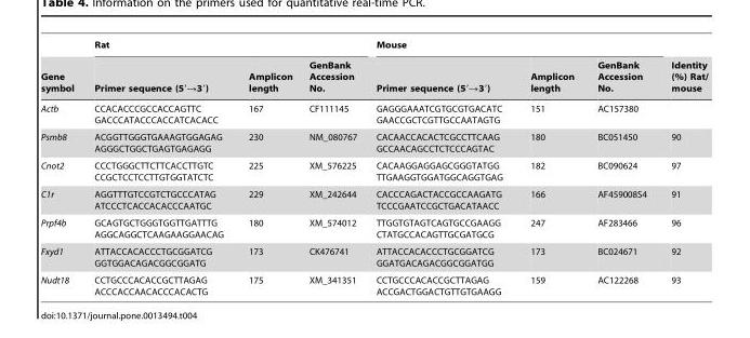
<table><thead><tr><td rowspan="2">Gene symbol</td><td colspan="3">Rat</td><td colspan="3">Mouse</td><td rowspan="2">Identity (%) Rat/ mouse</td></tr><tr><td>Primer sequence (5′→3′)</td><td>Amplicon length</td><td>GenBank Accession No.</td><td>Primer sequence (5′→3′)</td><td>Amplicon length</td><td>GenBank Accession No.</td></tr></thead><tbody><tr><td>Actb</td><td>CCACACCCGCCACCAGTTC GACCCATACCCACCATCACACC</td><td>167</td><td>CF111145</td><td>GAGGGAAATCGTGCGTGACATC GAACCGCTCGTTGCCAATAGTG</td><td>151</td><td>AC157380</td><td></td></tr><tr><td>Psmb8</td><td>ACGGTTGGGTGAAAGTGGAGAG AGGGCTGGCTGAGTGAGAGG</td><td>230</td><td>NM_080767</td><td>CACAACCACACTCGCCTTCAAG GCCAACAGCCTCTCCCAGTAC</td><td>180</td><td>BC051450</td><td>90</td></tr><tr><td>Cnot2</td><td>CCCTGGGCTTCTTCACCTTGTC CCGCTCCTCCTTGTGGTATCTC</td><td>225</td><td>XM_576225</td><td>CACAAGGAGGAGCGGGTATGG TTGAAGGTGGATGGCAGGTGAG</td><td>182</td><td>BC090624</td><td>97</td></tr><tr><td>C1r</td><td>AGGTTTGTCCGTCTGCCCATAG ATCCCTCACCACACCCAATGC</td><td>229</td><td>XM_242644</td><td>CACCCAGACTACCGCCAAGATG TCCCGAATCCGCTGACATAACC</td><td>166</td><td>AF459008S4</td><td>91</td></tr><tr><td>Prpf4b</td><td>GCAGTGCTGGGTGGTTGATTTG AGGCAGGCTCAAGAAGGAACAG</td><td>180</td><td>XM_574012</td><td>TTGGTGTAGTCAGTGCCGAAGG CTATGCCACAGTTGCGATGCG</td><td>247</td><td>AF283466</td><td>96</td></tr><tr><td>Fxyd1</td><td>ATTACCACACCCTGCGGATCG GGTGGACAGACGGCGGATG</td><td>173</td><td>CK476741</td><td>ATTACCACACCCTGCGGATCG GGATGACAGACGGCGGATGG</td><td>173</td><td>BC024671</td><td>92</td></tr><tr><td>Nudt18</td><td>CCTGCCCACACCGCTTAGAG ACCCACCAACACCCACACTG</td><td>175</td><td>XM_341351</td><td>CCTGCCCACACCGCTTAGAG ACCGACTGGACTGTTGTGAAGG</td><td>159</td><td>AC122268</td><td>93</td></tr></tbody></table>